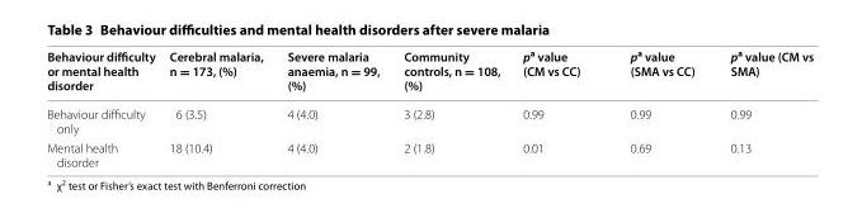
<table><thead><tr><td>Behaviour difficulty or mental health disorder</td><td>Cerebral malaria, n = 173, (%)</td><td>Severe malaria anaemia, n = 99, (%)</td><td>Community controls, n = 108, (%)</td><td>p<sup>a</sup> value (CM vs CC)</td><td>p<sup>a</sup> value (SMA vs CC)</td><td>p<sup>a</sup> value (CM vs SMA)</td></tr></thead><tbody><tr><td>Behaviour difficulty only</td><td>6 (3.5)</td><td>4 (4.0)</td><td>3 (2.8)</td><td>0.99</td><td>0.99</td><td>0.99</td></tr><tr><td>Mental health disorder</td><td>18 (10.4)</td><td>4 (4.0)</td><td>2 (1.8)</td><td>0.01</td><td>0.69</td><td>0.13</td></tr></tbody></table>